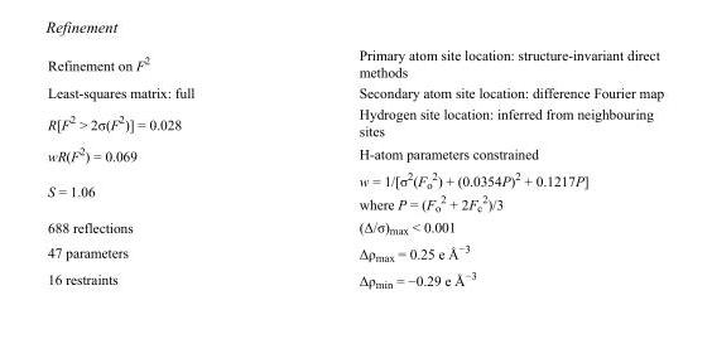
<table><tbody><tr><td>Refinement on F<sup>2</sup></td><td>Primary atom site location: structure-invariant direct methods</td></tr><tr><td>Least-squares matrix: full</td><td>Secondary atom site location: difference Fourier map</td></tr><tr><td>R[F<sup>2</sup> &gt; 2σ(F<sup>2</sup>)] = 0.028</td><td>Hydrogen site location: inferred from neighbouring sites</td></tr><tr><td>wR(F<sup>2</sup>) = 0.069</td><td>H-atom parameters constrained</td></tr><tr><td>S = 1.06</td><td>w = 1/[σ<sup>2</sup>(F<sub>o</sub> <sup>2</sup>) + (0.0354P)<sup>2</sup> + 0.1217P] where P = (F<sub>o</sub> <sup>2</sup> + 2F<sub>c</sub> <sup>2</sup>)/3</td></tr><tr><td>688 reflections</td><td>(Δ/σ)<sub>max</sub> &lt; 0.001</td></tr><tr><td>47 parameters</td><td>Δρ<sub>max</sub> = 0.25 e Å<sup>−3</sup></td></tr><tr><td>16 restraints</td><td>Δρ<sub>min</sub> = −0.29 e Å<sup>−3</sup></td></tr></tbody></table>